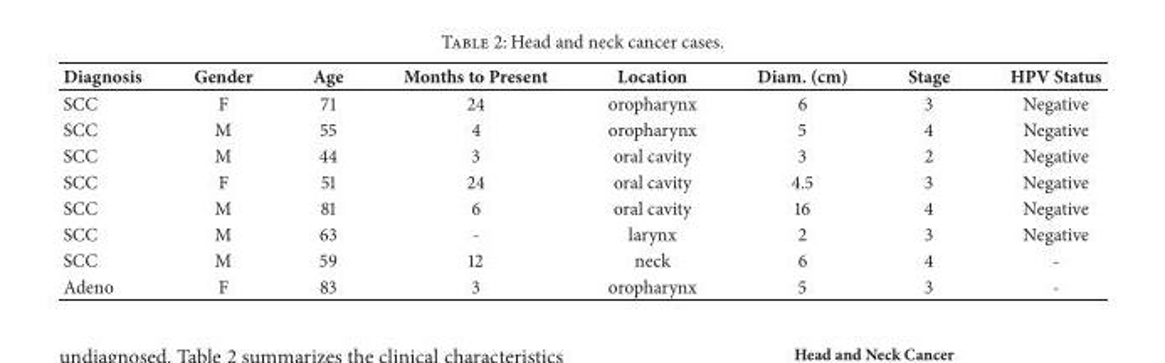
<table><thead><tr><td>Diagnosis</td><td>Gender</td><td>Age</td><td>Months to Present</td><td>Location</td><td>Diam. (cm)</td><td>Stage</td><td>HPV Status</td></tr></thead><tbody><tr><td>SCC</td><td>F</td><td>71</td><td>24</td><td>oropharynx</td><td>6</td><td>3</td><td>Negative</td></tr><tr><td>SCC</td><td>M</td><td>55</td><td>4</td><td>oropharynx</td><td>5</td><td>4</td><td>Negative</td></tr><tr><td>SCC</td><td>M</td><td>44</td><td>3</td><td>oral cavity</td><td>3</td><td>2</td><td>Negative</td></tr><tr><td>SCC</td><td>F</td><td>51</td><td>24</td><td>oral cavity</td><td>4.5</td><td>3</td><td>Negative</td></tr><tr><td>SCC</td><td>M</td><td>81</td><td>6</td><td>oral cavity</td><td>16</td><td>4</td><td>Negative</td></tr><tr><td>SCC</td><td>M</td><td>63</td><td>-</td><td>larynx</td><td>2</td><td>3</td><td>Negative</td></tr><tr><td>SCC</td><td>M</td><td>59</td><td>12</td><td>neck</td><td>6</td><td>4</td><td>-</td></tr><tr><td>Adeno</td><td>F</td><td>83</td><td>3</td><td>oropharynx</td><td>5</td><td>3</td><td>-</td></tr></tbody></table>